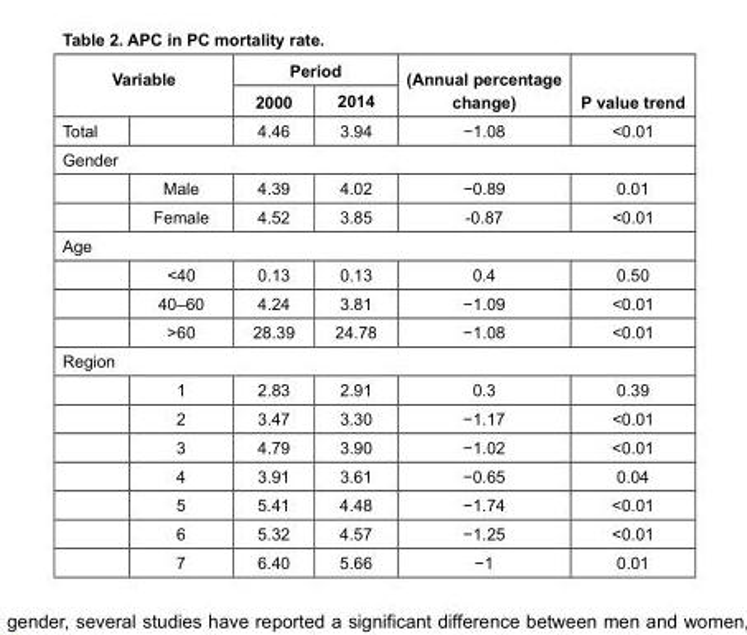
<table><thead><tr><td rowspan="2" colspan="2">Variable</td><td colspan="2">Period</td><td rowspan="3">(Annual percentage change) −1.08</td><td rowspan="3">P value trend &lt;0.01</td></tr><tr><td rowspan="2">2000 4.46</td><td rowspan="2">2014 3.94</td></tr><tr><td>Total</td><td></td></tr></thead><tbody><tr><td colspan="6">Gender</td></tr><tr><td></td><td>Male</td><td>4.39</td><td>4.02</td><td>−0.89</td><td>0.01</td></tr><tr><td></td><td>Female</td><td>4.52</td><td>3.85</td><td>-0.87</td><td>&lt;0.01</td></tr><tr><td colspan="6">Age</td></tr><tr><td></td><td>&lt;40</td><td>0.13</td><td>0.13</td><td>0.4</td><td>0.50</td></tr><tr><td></td><td>40–60</td><td>4.24</td><td>3.81</td><td>−1.09</td><td>&lt;0.01</td></tr><tr><td></td><td>&gt;60</td><td>28.39</td><td>24.78</td><td>−1.08</td><td>&lt;0.01</td></tr><tr><td colspan="6">Region</td></tr><tr><td></td><td>1</td><td>2.83</td><td>2.91</td><td>0.3</td><td>0.39</td></tr><tr><td></td><td>2</td><td>3.47</td><td>3.30</td><td>−1.17</td><td>&lt;0.01</td></tr><tr><td></td><td>3</td><td>4.79</td><td>3.90</td><td>−1.02</td><td>&lt;0.01</td></tr><tr><td></td><td>4</td><td>3.91</td><td>3.61</td><td>−0.65</td><td>0.04</td></tr><tr><td></td><td>5</td><td>5.41</td><td>4.48</td><td>−1.74</td><td>&lt;0.01</td></tr><tr><td></td><td>6</td><td>5.32</td><td>4.57</td><td>−1.25</td><td>&lt;0.01</td></tr><tr><td></td><td>7</td><td>6.40</td><td>5.66</td><td>−1</td><td>0.01</td></tr></tbody></table>